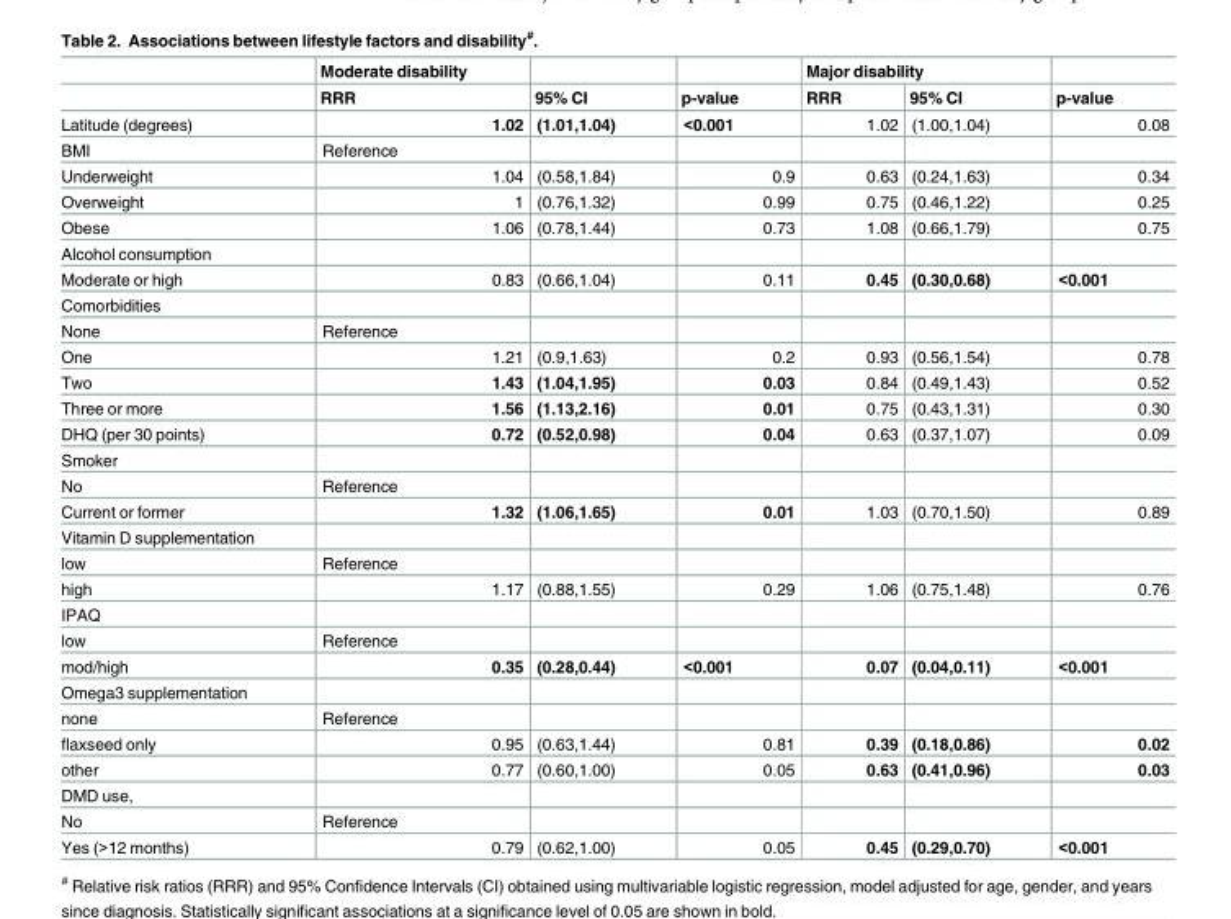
<table><thead><tr><td rowspan="2"></td><td rowspan="2">Moderate disability RRR</td><td rowspan="2">95% CI</td><td rowspan="2">p-value</td><td colspan="2">Major disability</td><td rowspan="2">p-value</td></tr><tr><td>RRR</td><td>95% CI</td></tr></thead><tbody><tr><td>Latitude (degrees)</td><td>1.02</td><td>(1.01,1.04)</td><td>&lt;0.001</td><td>1.02</td><td>(1.00,1.04)</td><td>0.08</td></tr><tr><td>BMI</td><td>Reference</td><td></td><td></td><td></td><td></td><td></td></tr><tr><td>Underweight</td><td>1.04</td><td>(0.58,1.84)</td><td>0.9</td><td>0.63</td><td>(0.24,1.63)</td><td>0.34</td></tr><tr><td>Overweight</td><td>1</td><td>(0.76,1.32)</td><td>0.99</td><td>0.75</td><td>(0.46,1.22)</td><td>0.25</td></tr><tr><td>Obese</td><td>1.06</td><td>(0.78,1.44)</td><td>0.73</td><td>1.08</td><td>(0.66,1.79)</td><td>0.75</td></tr><tr><td colspan="7">Alcohol consumption</td></tr><tr><td>Moderate or high</td><td>0.83</td><td>(0.66,1.04)</td><td>0.11</td><td>0.45</td><td>(0.30,0.68)</td><td>&lt;0.001</td></tr><tr><td colspan="7">Comorbidities</td></tr><tr><td>None</td><td>Reference</td><td></td><td></td><td></td><td></td><td></td></tr><tr><td>One</td><td>1.21</td><td>(0.9,1.63)</td><td>0.2</td><td>0.93</td><td>(0.56,1.54)</td><td>0.78</td></tr><tr><td>Two</td><td>1.43</td><td>(1.04,1.95)</td><td>0.03</td><td>0.84</td><td>(0.49,1.43)</td><td>0.52</td></tr><tr><td>Three or more</td><td>1.56</td><td>(1.13,2.16)</td><td>0.01</td><td>0.75</td><td>(0.43,1.31)</td><td>0.30</td></tr><tr><td>DHQ (per 30 points)</td><td>0.72</td><td>(0.52,0.98)</td><td>0.04</td><td>0.63</td><td>(0.37,1.07)</td><td>0.09</td></tr><tr><td colspan="7">Smoker</td></tr><tr><td>No</td><td>Reference</td><td></td><td></td><td></td><td></td><td></td></tr><tr><td>Current or former</td><td>1.32</td><td>(1.06,1.65)</td><td>0.01</td><td>1.03</td><td>(0.70,1.50)</td><td>0.89</td></tr><tr><td colspan="7">Vitamin D supplementation</td></tr><tr><td>low</td><td>Reference</td><td></td><td></td><td></td><td></td><td></td></tr><tr><td>high</td><td>1.17</td><td>(0.88,1.55)</td><td>0.29</td><td>1.06</td><td>(0.75,1.48)</td><td>0.76</td></tr><tr><td colspan="7">IPAQ</td></tr><tr><td>low</td><td>Reference</td><td></td><td></td><td></td><td></td><td></td></tr><tr><td>mod/high</td><td>0.35</td><td>(0.28,0.44)</td><td>&lt;0.001</td><td>0.07</td><td>(0.04,0.11)</td><td>&lt;0.001</td></tr><tr><td colspan="7">Omega3 supplementation</td></tr><tr><td>none</td><td>Reference</td><td></td><td></td><td></td><td></td><td></td></tr><tr><td>flaxseed only</td><td>0.95</td><td>(0.63,1.44)</td><td>0.81</td><td>0.39</td><td>(0.18,0.86)</td><td>0.02</td></tr><tr><td>other</td><td>0.77</td><td>(0.60,1.00)</td><td>0.05</td><td>0.63</td><td>(0.41,0.96)</td><td>0.03</td></tr><tr><td colspan="7">DMD use,</td></tr><tr><td>No</td><td>Reference</td><td></td><td></td><td></td><td></td><td></td></tr><tr><td>Yes (&gt;12 months)</td><td>0.79</td><td>(0.62,1.00)</td><td>0.05</td><td>0.45</td><td>(0.29,0.70)</td><td>&lt;0.001</td></tr></tbody></table>